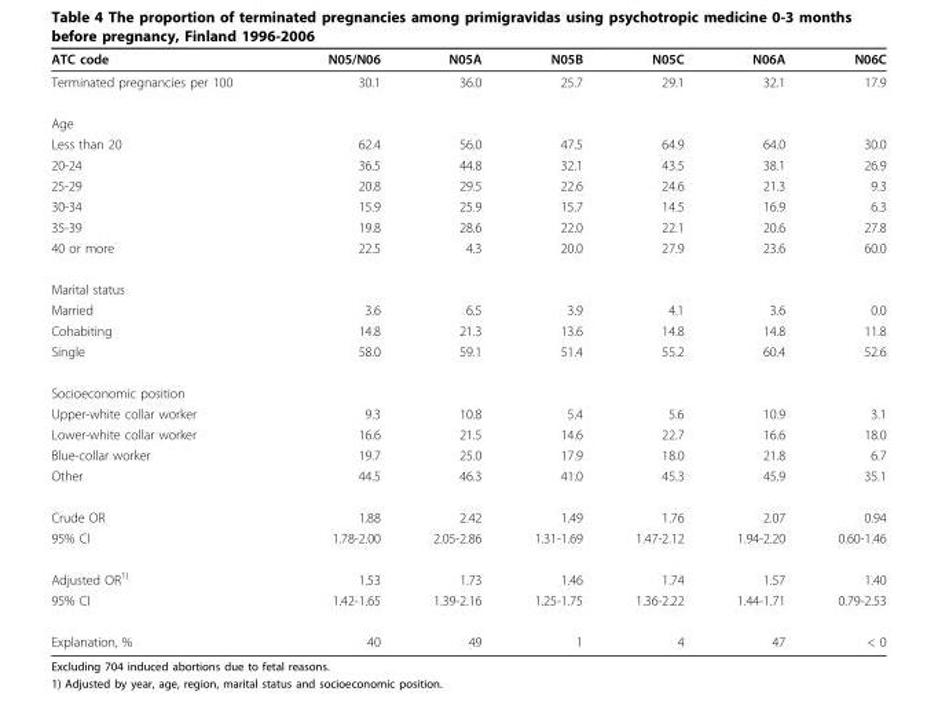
<table><thead><tr><td>ATC code</td><td>N05/N06</td><td>N05A</td><td>N05B</td><td>N05C</td><td>N06A</td><td>N06C</td></tr></thead><tbody><tr><td>Terminated pregnancies per 100</td><td>30.1</td><td>36.0</td><td>25.7</td><td>29.1</td><td>32.1</td><td>17.9</td></tr><tr><td colspan="7">Age</td></tr><tr><td>Less than 20</td><td>62.4</td><td>56.0</td><td>47.5</td><td>64.9</td><td>64.0</td><td>30.0</td></tr><tr><td>20-24</td><td>36.5</td><td>44.8</td><td>32.1</td><td>43.5</td><td>38.1</td><td>26.9</td></tr><tr><td>25-29</td><td>20.8</td><td>29.5</td><td>22.6</td><td>24.6</td><td>21.3</td><td>9.3</td></tr><tr><td>30-34</td><td>15.9</td><td>25.9</td><td>15.7</td><td>14.5</td><td>16.9</td><td>6.3</td></tr><tr><td>35-39</td><td>19.8</td><td>28.6</td><td>22.0</td><td>22.1</td><td>20.6</td><td>27.8</td></tr><tr><td>40 or more</td><td>22.5</td><td>4.3</td><td>20.0</td><td>27.9</td><td>23.6</td><td>60.0</td></tr><tr><td colspan="7">Marital status</td></tr><tr><td>Married</td><td>3.6</td><td>6.5</td><td>3.9</td><td>4.1</td><td>3.6</td><td>0.0</td></tr><tr><td>Cohabiting</td><td>14.8</td><td>21.3</td><td>13.6</td><td>14.8</td><td>14.8</td><td>11.8</td></tr><tr><td>Single</td><td>58.0</td><td>59.1</td><td>51.4</td><td>55.2</td><td>60.4</td><td>52.6</td></tr><tr><td colspan="7">Socioeconomic position</td></tr><tr><td>Upper-white collar worker</td><td>9.3</td><td>10.8</td><td>5.4</td><td>5.6</td><td>10.9</td><td>3.1</td></tr><tr><td>Lower-white collar worker</td><td>16.6</td><td>21.5</td><td>14.6</td><td>22.7</td><td>16.6</td><td>18.0</td></tr><tr><td>Blue-collar worker</td><td>19.7</td><td>25.0</td><td>17.9</td><td>18.0</td><td>21.8</td><td>6.7</td></tr><tr><td>Other</td><td>44.5</td><td>46.3</td><td>41.0</td><td>45.3</td><td>45.9</td><td>35.1</td></tr><tr><td>Crude OR</td><td>1.88</td><td>2.42</td><td>1.49</td><td>1.76</td><td>2.07</td><td>0.94</td></tr><tr><td>95% CI</td><td>1.78-2.00</td><td>2.05-2.86</td><td>1.31-1.69</td><td>1.47-2.12</td><td>1.94-2.20</td><td>0.60-1.46</td></tr><tr><td>Adjusted OR<sup>1)</sup></td><td>1.53</td><td>1.73</td><td>1.46</td><td>1.74</td><td>1.57</td><td>1.40</td></tr><tr><td>95% CI</td><td>1.42-1.65</td><td>1.39-2.16</td><td>1.25-1.75</td><td>1.36-2.22</td><td>1.44-1.71</td><td>0.79-2.53</td></tr><tr><td>Explanation, %</td><td>40</td><td>49</td><td>1</td><td>4</td><td>47</td><td>&lt; 0</td></tr></tbody></table>